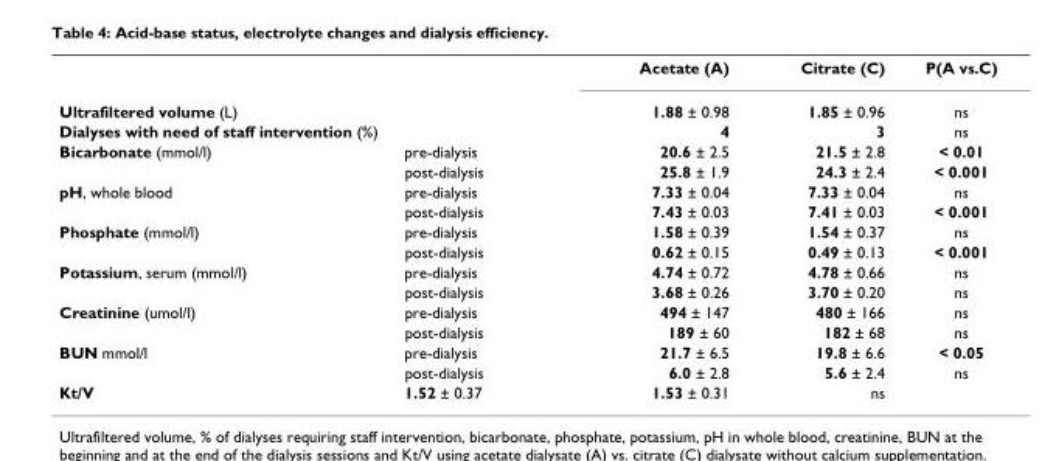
<table><thead><tr><td></td><td></td><td>Acetate (A)</td><td>Citrate (C)</td><td>P(A vs.C)</td></tr></thead><tbody><tr><td>Ultrafiltered volume (L)</td><td></td><td>1.88 ± 0.98</td><td>1.85 ± 0.96</td><td>ns</td></tr><tr><td colspan="2">Dialyses with need of staff intervention (%)</td><td>4</td><td>3</td><td>ns</td></tr><tr><td rowspan="2">Bicarbonate (mmol/l)</td><td>pre-dialysis</td><td>20.6 ± 2.5</td><td>21.5 ± 2.8</td><td>&lt; 0.01</td></tr><tr><td>post-dialysis</td><td>25.8 ± 1.9</td><td>24.3 ± 2.4</td><td>&lt; 0.001</td></tr><tr><td rowspan="2">pH, whole blood</td><td>pre-dialysis</td><td>7.33 ± 0.04</td><td>7.33 ± 0.04</td><td>ns</td></tr><tr><td>post-dialysis</td><td>7.43 ± 0.03</td><td>7.41 ± 0.03</td><td>&lt; 0.001</td></tr><tr><td rowspan="2">Phosphate (mmol/l)</td><td>pre-dialysis</td><td>1.58 ± 0.39</td><td>1.54 ± 0.37</td><td>ns</td></tr><tr><td>post-dialysis</td><td>0.62 ± 0.15</td><td>0.49 ± 0.13</td><td>&lt; 0.001</td></tr><tr><td rowspan="2">Potassium, serum (mmol/l)</td><td>pre-dialysis</td><td>4.74 ± 0.72</td><td>4.78 ± 0.66</td><td>ns</td></tr><tr><td>post-dialysis</td><td>3.68 ± 0.26</td><td>3.70 ± 0.20</td><td>ns</td></tr><tr><td rowspan="2">Creatinine (umol/l)</td><td>pre-dialysis</td><td>494 ± 147</td><td>480 ± 166</td><td>ns</td></tr><tr><td>post-dialysis</td><td>189 ± 60</td><td>182 ± 68</td><td>ns</td></tr><tr><td rowspan="2">BUN mmol/l</td><td>pre-dialysis</td><td>21.7 ± 6.5</td><td>19.8 ± 6.6</td><td>&lt; 0.05</td></tr><tr><td>post-dialysis</td><td>6.0 ± 2.8</td><td>5.6 ± 2.4</td><td>ns</td></tr><tr><td>Kt/V</td><td>1.52 ± 0.37</td><td>1.53 ± 0.31</td><td>ns</td><td></td></tr></tbody></table>